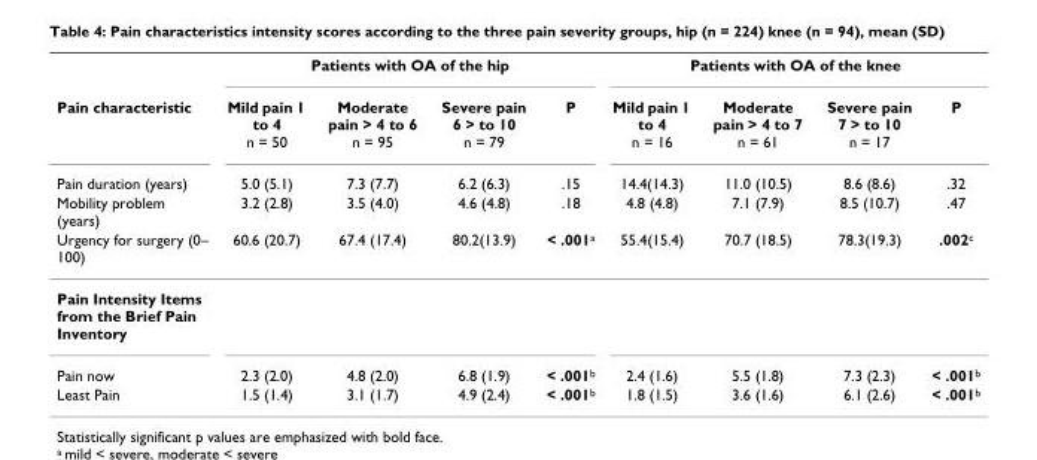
<table><thead><tr><td rowspan="5">Pain characteristic Pain duration (years) Mobility problem (years) Urgency for surgery (0– 100)</td><td colspan="4">Patients with OA of the hip</td><td colspan="4">Patients with OA of the knee</td></tr><tr><td rowspan="4">Mild pain 1 to 4 n = 50 5.0 (5.1) 3.2 (2.8) 60.6 (20.7)</td><td rowspan="4">Moderate pain &gt; 4 to 6 n = 95 7.3 (7.7) 3.5 (4.0) 67.4 (17.4)</td><td rowspan="4">Severe pain 6 &gt; to 10 n = 79 6.2 (6.3) 4.6 (4.8) 80.2(13.9)</td><td rowspan="4">P .15 .18 &lt; .001<sup>a</sup></td><td rowspan="4">Mild pain 1 to 4 n = 16 14.4(14.3) 4.8 (4.8) 55.4(15.4)</td><td rowspan="4">Moderate pain &gt; 4 to 7 n = 61 11.0 (10.5) 7.1 (7.9) 70.7 (18.5)</td><td rowspan="4">Severe pain 7 &gt; to 10 n = 17 8.6 (8.6) 8.5 (10.7) 78.3(19.3)</td><td rowspan="4">P .32 .47 .002<sup>c</sup></td></tr><tr></tr><tr></tr><tr></tr></thead><tbody><tr><td colspan="9">Pain Intensity Items from the Brief Pain Inventory</td></tr><tr><td>Pain now</td><td>2.3 (2.0)</td><td>4.8 (2.0)</td><td>6.8 (1.9)</td><td>&lt; .001<sup>b</sup></td><td>2.4 (1.6)</td><td>5.5 (1.8)</td><td>7.3 (2.3)</td><td>&lt; .001<sup>b</sup></td></tr><tr><td>Least Pain</td><td>1.5 (1.4)</td><td>3.1 (1.7)</td><td>4.9 (2.4)</td><td>&lt; .001<sup>b</sup></td><td>1.8 (1.5)</td><td>3.6 (1.6)</td><td>6.1 (2.6)</td><td>&lt; .001<sup>b</sup></td></tr></tbody></table>